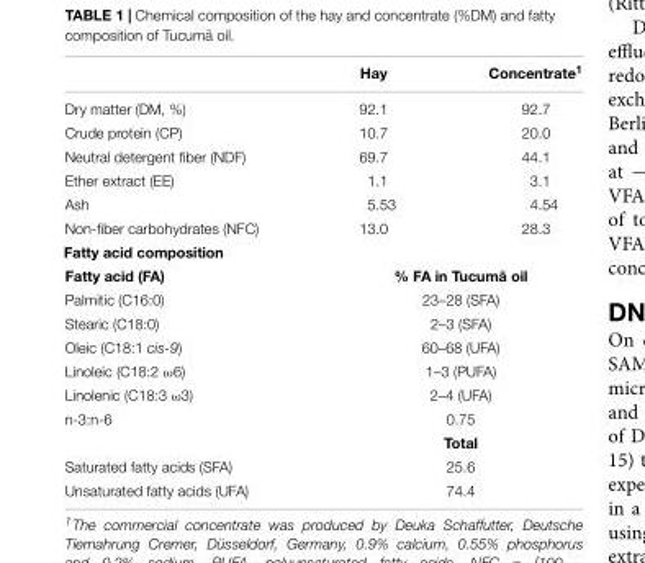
<table><thead><tr><td></td><td>Hay</td><td>Concentrate<sup>1</sup></td></tr></thead><tbody><tr><td>Dry matter (DM, %)</td><td>92.1</td><td>92.7</td></tr><tr><td>Crude protein (CP)</td><td>10.7</td><td>20.0</td></tr><tr><td>Neutral detergent fiber (NDF)</td><td>69.7</td><td>44.1</td></tr><tr><td>Ether extract (EE)</td><td>1.1</td><td>3.1</td></tr><tr><td>Ash</td><td>5.53</td><td>4.54</td></tr><tr><td>Non-fiber carbohydrates (NFC)</td><td>13.0</td><td>28.3</td></tr><tr><td colspan="3">Fatty acid composition</td></tr><tr><td>Fatty acid (FA)</td><td colspan="2">% FA in Tucumã oil</td></tr><tr><td>Palmitic (C16:0)</td><td colspan="2">23–28 (SFA)</td></tr><tr><td>Stearic (C18:0)</td><td colspan="2">2–3 (SFA)</td></tr><tr><td>Oleic (C18:1 cis-9)</td><td colspan="2">60–68 (UFA)</td></tr><tr><td>Linoleic (C18:2 ω6)</td><td colspan="2">1–3 (PUFA)</td></tr><tr><td>Linolenic (C18:3 ω3)</td><td colspan="2">2–4 (UFA)</td></tr><tr><td rowspan="2">n-3:n-6</td><td colspan="2">0.75</td></tr><tr><td colspan="2">Total</td></tr><tr><td>Saturated fatty acids (SFA)</td><td colspan="2">25.6</td></tr><tr><td>Unsaturated fatty acids (UFA)</td><td colspan="2">74.4</td></tr></tbody></table>